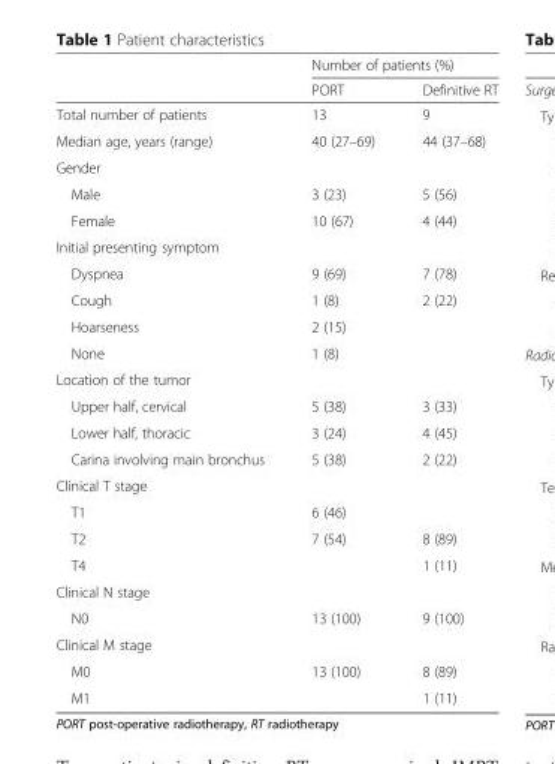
<table><thead><tr><td rowspan="2"></td><td colspan="2">Number of patients (%)</td></tr><tr><td>PORT</td><td>Definitive RT</td></tr></thead><tbody><tr><td>Total number of patients</td><td>13</td><td>9</td></tr><tr><td>Median age, years (range)</td><td>40 (27–69)</td><td>44 (37–68)</td></tr><tr><td colspan="3">Gender</td></tr><tr><td>Male</td><td>3 (23)</td><td>5 (56)</td></tr><tr><td>Female</td><td>10 (67)</td><td>4 (44)</td></tr><tr><td colspan="3">Initial presenting symptom</td></tr><tr><td>Dyspnea</td><td>9 (69)</td><td>7 (78)</td></tr><tr><td>Cough</td><td>1 (8)</td><td>2 (22)</td></tr><tr><td>Hoarseness</td><td>2 (15)</td><td></td></tr><tr><td>None</td><td>1 (8)</td><td></td></tr><tr><td colspan="3">Location of the tumor</td></tr><tr><td>Upper half, cervical</td><td>5 (38)</td><td>3 (33)</td></tr><tr><td>Lower half, thoracic</td><td>3 (24)</td><td>4 (45)</td></tr><tr><td>Carina involving main bronchus</td><td>5 (38)</td><td>2 (22)</td></tr><tr><td colspan="3">Clinical T stage</td></tr><tr><td>T1</td><td>6 (46)</td><td></td></tr><tr><td>T2</td><td>7 (54)</td><td>8 (89)</td></tr><tr><td>T4</td><td></td><td>1 (11)</td></tr><tr><td colspan="3">Clinical N stage</td></tr><tr><td>N0</td><td>13 (100)</td><td>9 (100)</td></tr><tr><td colspan="3">Clinical M stage</td></tr><tr><td>M0</td><td>13 (100)</td><td>8 (89)</td></tr><tr><td>M1</td><td></td><td>1 (11)</td></tr></tbody></table>